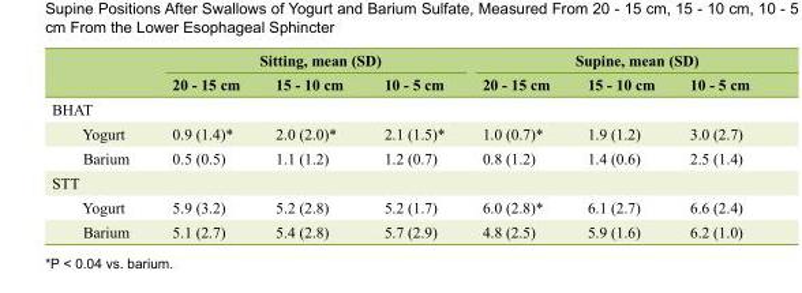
<table><thead><tr><td rowspan="2"></td><td colspan="3">Sitting, mean (SD)</td><td colspan="3">Supine, mean (SD)</td></tr><tr><td>20 - 15 cm</td><td>15 - 10 cm</td><td>10 - 5 cm</td><td>20 - 15 cm</td><td>15 - 10 cm</td><td>10 - 5 cm</td></tr></thead><tbody><tr><td colspan="7">BHAT</td></tr><tr><td>Yogurt</td><td>0.9 (1.4)*</td><td>2.0 (2.0)*</td><td>2.1 (1.5)*</td><td>1.0 (0.7)*</td><td>1.9 (1.2)</td><td>3.0 (2.7)</td></tr><tr><td>Barium</td><td>0.5 (0.5)</td><td>1.1 (1.2)</td><td>1.2 (0.7)</td><td>0.8 (1.2)</td><td>1.4 (0.6)</td><td>2.5 (1.4)</td></tr><tr><td colspan="7">STT</td></tr><tr><td>Yogurt</td><td>5.9 (3.2)</td><td>5.2 (2.8)</td><td>5.2 (1.7)</td><td>6.0 (2.8)*</td><td>6.1 (2.7)</td><td>6.6 (2.4)</td></tr><tr><td>Barium</td><td>5.1 (2.7)</td><td>5.4 (2.8)</td><td>5.7 (2.9)</td><td>4.8 (2.5)</td><td>5.9 (1.6)</td><td>6.2 (1.0)</td></tr></tbody></table>